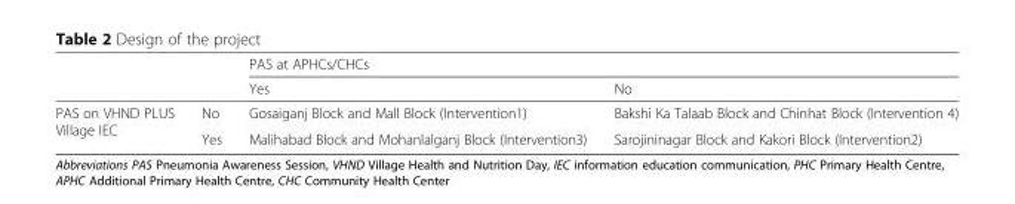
<table><thead><tr><td rowspan="2"></td><td rowspan="2"></td><td colspan="2">PAS at APHCs/CHCs</td></tr><tr><td>Yes</td><td>No</td></tr></thead><tbody><tr><td rowspan="2">PAS on VHND PLUS Village IEC</td><td>No</td><td>Gosaiganj Block and Mall Block (Intervention1)</td><td>Bakshi Ka Talaab Block and Chinhat Block (Intervention 4)</td></tr><tr><td>Yes</td><td>Malihabad Block and Mohanlalganj Block (Intervention3)</td><td>Sarojininagar Block and Kakori Block (Intervention2)</td></tr></tbody></table>